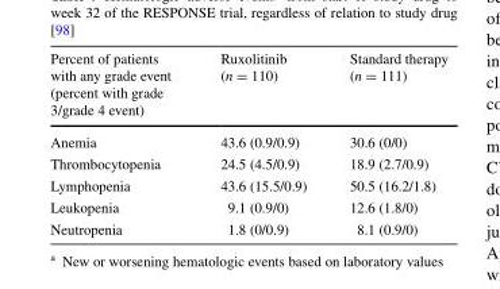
<table><thead><tr><td>Percent of patients with any grade event (percent with grade 3/grade 4 event)</td><td>Ruxolitinib (n = 110)</td><td>Standard therapy (n = 111)</td></tr></thead><tbody><tr><td>Anemia</td><td>43.6 (0.9/0.9)</td><td>30.6 (0/0)</td></tr><tr><td>Thrombocytopenia</td><td>24.5 (4.5/0.9)</td><td>18.9 (2.7/0.9)</td></tr><tr><td>Lymphopenia</td><td>43.6 (15.5/0.9)</td><td>50.5 (16.2/1.8)</td></tr><tr><td>Leukopenia</td><td>9.1 (0.9/0)</td><td>12.6 (1.8/0)</td></tr><tr><td>Neutropenia</td><td>1.8 (0/0.9)</td><td>8.1 (0.9/0)</td></tr></tbody></table>